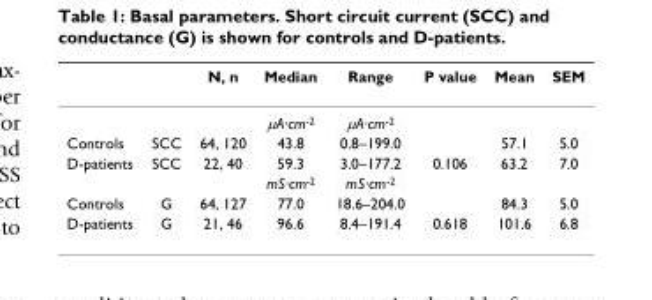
<table><thead><tr><td></td><td></td><td>N, n</td><td>Median</td><td>Range</td><td>P value</td><td>Mean</td><td>SEM</td></tr></thead><tbody><tr><td></td><td></td><td></td><td>μA·cm<sup>-2</sup></td><td>μA·cm<sup>-2</sup></td><td></td><td></td><td></td></tr><tr><td>Controls</td><td>SCC</td><td>64, 120</td><td>43.8</td><td>0.8–199.0</td><td></td><td>57.1</td><td>5.0</td></tr><tr><td rowspan="2">D-patients</td><td>SCC</td><td>22, 40</td><td>59.3</td><td>3.0–177.2</td><td>0.106</td><td>63.2</td><td>7.0</td></tr><tr><td></td><td></td><td>mS·cm<sup>-2</sup></td><td>mS·cm<sup>-2</sup></td><td></td><td></td><td></td></tr><tr><td>Controls</td><td>G</td><td>64, 127</td><td>77.0</td><td>18.6–204.0</td><td></td><td>84.3</td><td>5.0</td></tr><tr><td>D-patients</td><td>G</td><td>21, 46</td><td>96.6</td><td>8.4–191.4</td><td>0.618</td><td>101.6</td><td>6.8</td></tr></tbody></table>